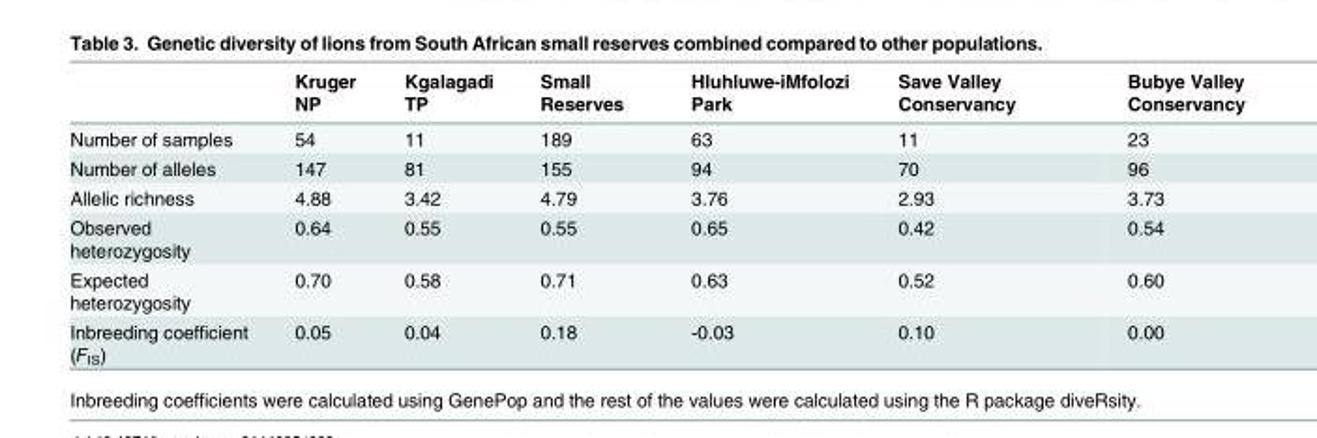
<table><thead><tr><td></td><td>Kruger NP</td><td>Kgalagadi TP</td><td>Small Reserves</td><td>Hluhluwe-iMfolozi Park</td><td>Save Valley Conservancy</td><td>Bubye Valley Conservancy</td></tr></thead><tbody><tr><td>Number of samples</td><td>54</td><td>11</td><td>189</td><td>63</td><td>11</td><td>23</td></tr><tr><td>Number of alleles</td><td>147</td><td>81</td><td>155</td><td>94</td><td>70</td><td>96</td></tr><tr><td>Allelic richness</td><td>4.88</td><td>3.42</td><td>4.79</td><td>3.76</td><td>2.93</td><td>3.73</td></tr><tr><td>Observed heterozygosity</td><td>0.64</td><td>0.55</td><td>0.55</td><td>0.65</td><td>0.42</td><td>0.54</td></tr><tr><td>Expected heterozygosity</td><td>0.70</td><td>0.58</td><td>0.71</td><td>0.63</td><td>0.52</td><td>0.60</td></tr><tr><td>Inbreeding coefficient (F<sub>IS</sub>)</td><td>0.05</td><td>0.04</td><td>0.18</td><td>-0.03</td><td>0.10</td><td>0.00</td></tr></tbody></table>